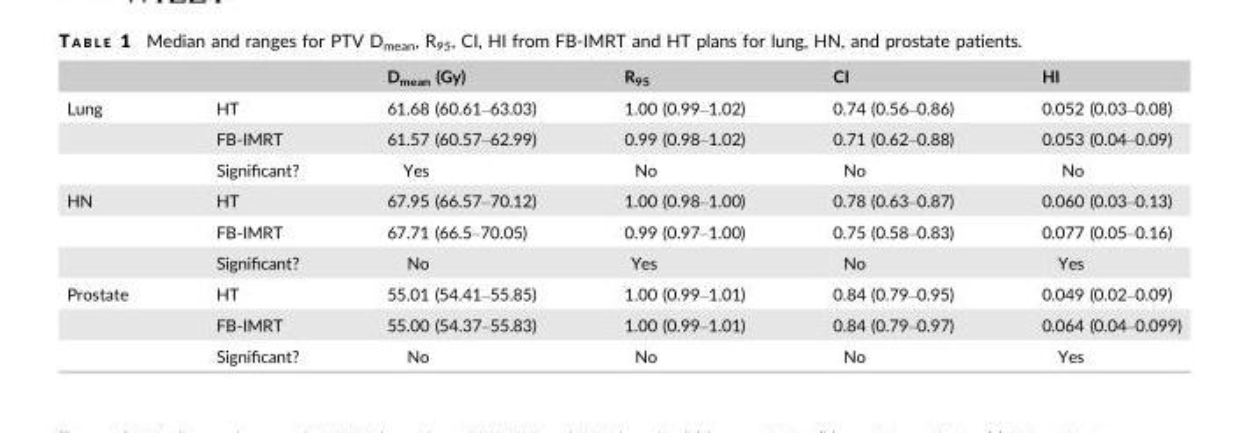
<table><thead><tr><td></td><td></td><td>D<sub>mean</sub> (Gy)</td><td>R<sub>95</sub></td><td>CI</td><td>HI</td></tr></thead><tbody><tr><td rowspan="3">Lung</td><td>HT</td><td>61.68 (60.61–63.03)</td><td>1.00 (0.99–1.02)</td><td>0.74 (0.56–0.86)</td><td>0.052 (0.03–0.08)</td></tr><tr><td>FB-IMRT</td><td>61.57 (60.57–62.99)</td><td>0.99 (0.98–1.02)</td><td>0.71 (0.62–0.88)</td><td>0.053 (0.04–0.09)</td></tr><tr><td>Significant?</td><td>Yes</td><td>No</td><td>No</td><td>No</td></tr><tr><td rowspan="3">HN</td><td>HT</td><td>67.95 (66.57–70.12)</td><td>1.00 (0.98–1.00)</td><td>0.78 (0.63–0.87)</td><td>0.060 (0.03–0.13)</td></tr><tr><td>FB-IMRT</td><td>67.71 (66.5–70.05)</td><td>0.99 (0.97–1.00)</td><td>0.75 (0.58–0.83)</td><td>0.077 (0.05–0.16)</td></tr><tr><td>Significant?</td><td>No</td><td>Yes</td><td>No</td><td>Yes</td></tr><tr><td rowspan="3">Prostate</td><td>HT</td><td>55.01 (54.41–55.85)</td><td>1.00 (0.99–1.01)</td><td>0.84 (0.79–0.95)</td><td>0.049 (0.02–0.09)</td></tr><tr><td>FB-IMRT</td><td>55.00 (54.37–55.83)</td><td>1.00 (0.99–1.01)</td><td>0.84 (0.79–0.97)</td><td>0.064 (0.04–0.099)</td></tr><tr><td>Significant?</td><td>No</td><td>No</td><td>No</td><td>Yes</td></tr></tbody></table>